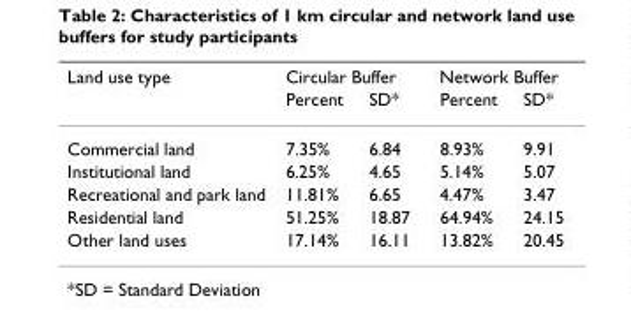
<table><thead><tr><td rowspan="2">Land use type</td><td colspan="2">Circular Buffer</td><td colspan="2">Network Buffer</td></tr><tr><td>Percent</td><td>SD*</td><td>Percent</td><td>SD*</td></tr></thead><tbody><tr><td>Commercial land</td><td>7.35%</td><td>6.84</td><td>8.93%</td><td>9.91</td></tr><tr><td>Institutional land</td><td>6.25%</td><td>4.65</td><td>5.14%</td><td>5.07</td></tr><tr><td>Recreational and park land</td><td>11.81%</td><td>6.65</td><td>4.47%</td><td>3.47</td></tr><tr><td>Residential land</td><td>51.25%</td><td>18.87</td><td>64.94%</td><td>24.15</td></tr><tr><td>Other land uses</td><td>17.14%</td><td>16.11</td><td>13.82%</td><td>20.45</td></tr></tbody></table>